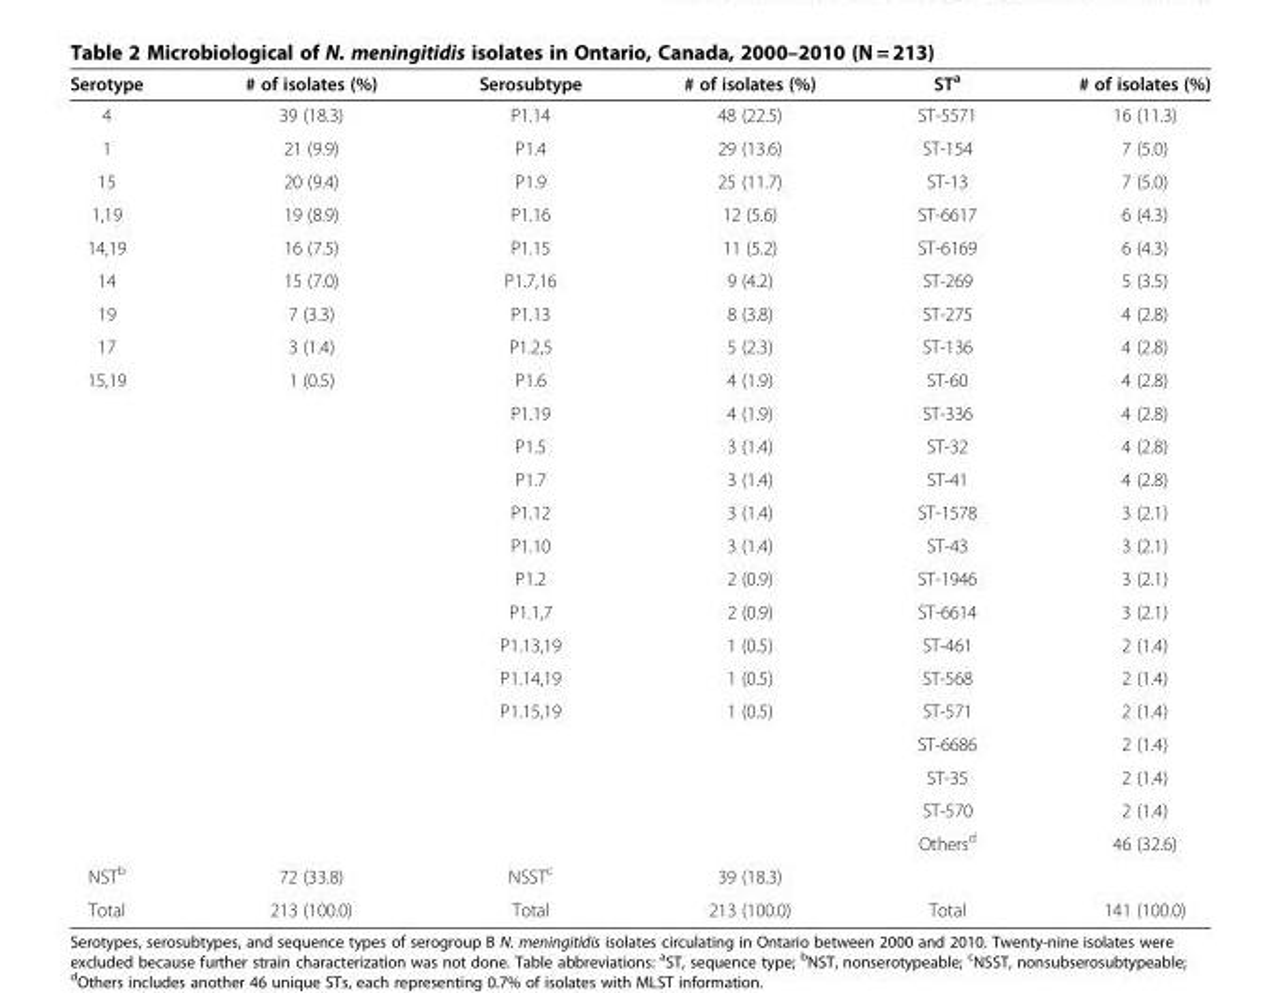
<table><thead><tr><td>Serotype</td><td># of isolates (%)</td><td>Serosubtype</td><td># of isolates (%)</td><td>ST<sup>a</sup></td><td># of isolates (%)</td></tr></thead><tbody><tr><td>4</td><td>39 (18.3)</td><td>P1.14</td><td>48 (22.5)</td><td>ST-5571</td><td>16 (11.3)</td></tr><tr><td>1</td><td>21 (9.9)</td><td>P1.4</td><td>29 (13.6)</td><td>ST-154</td><td>7 (5.0)</td></tr><tr><td>15</td><td>20 (9.4)</td><td>P1.9</td><td>25 (11.7)</td><td>ST-13</td><td>7 (5.0)</td></tr><tr><td>1,19</td><td>19 (8.9)</td><td>P1.16</td><td>12 (5.6)</td><td>ST-6617</td><td>6 (4.3)</td></tr><tr><td>14,19</td><td>16 (7.5)</td><td>P1.15</td><td>11 (5.2)</td><td>ST-6169</td><td>6 (4.3)</td></tr><tr><td>14</td><td>15 (7.0)</td><td>P1.7,16</td><td>9 (4.2)</td><td>ST-269</td><td>5 (3.5)</td></tr><tr><td>19</td><td>7 (3.3)</td><td>P1.13</td><td>8 (3.8)</td><td>ST-275</td><td>4 (2.8)</td></tr><tr><td>17</td><td>3 (1.4)</td><td>P1.2,5</td><td>5 (2.3)</td><td>ST-136</td><td>4 (2.8)</td></tr><tr><td rowspan="15">15,19</td><td>1 (0.5)</td><td>P1.6</td><td>4 (1.9)</td><td>ST-60</td><td>4 (2.8)</td></tr><tr><td></td><td>P1.19</td><td>4 (1.9)</td><td>ST-336</td><td>4 (2.8)</td></tr><tr><td></td><td>P1.5</td><td>3 (1.4)</td><td>ST-32</td><td>4 (2.8)</td></tr><tr><td></td><td>P1.7</td><td>3 (1.4)</td><td>ST-41</td><td>4 (2.8)</td></tr><tr><td></td><td>P1.12</td><td>3 (1.4)</td><td>ST-1578</td><td>3 (2.1)</td></tr><tr><td></td><td>P1.10</td><td>3 (1.4)</td><td>ST-43</td><td>3 (2.1)</td></tr><tr><td></td><td>P1.2</td><td>2 (0.9)</td><td>ST-1946</td><td>3 (2.1)</td></tr><tr><td></td><td>P1.1,7</td><td>2 (0.9)</td><td>ST-6614</td><td>3 (2.1)</td></tr><tr><td></td><td>P1.13,19</td><td>1 (0.5)</td><td>ST-461</td><td>2 (1.4)</td></tr><tr><td></td><td>P1.14,19</td><td>1 (0.5)</td><td>ST-568</td><td>2 (1.4)</td></tr><tr><td></td><td>P1.15,19</td><td>1 (0.5)</td><td>ST-571</td><td>2 (1.4)</td></tr><tr><td></td><td></td><td></td><td>ST-6686</td><td>2 (1.4)</td></tr><tr><td></td><td></td><td></td><td>ST-35</td><td>2 (1.4)</td></tr><tr><td></td><td></td><td></td><td>ST-570</td><td>2 (1.4)</td></tr><tr><td></td><td></td><td></td><td>Others<sup>d</sup></td><td>46 (32.6)</td></tr><tr><td>NST<sup>b</sup></td><td>72 (33.8)</td><td>NSST<sup>c</sup></td><td>39 (18.3)</td><td></td><td></td></tr><tr><td>Total</td><td>213 (100.0)</td><td>Total</td><td>213 (100.0)</td><td>Total</td><td>141 (100.0)</td></tr></tbody></table>